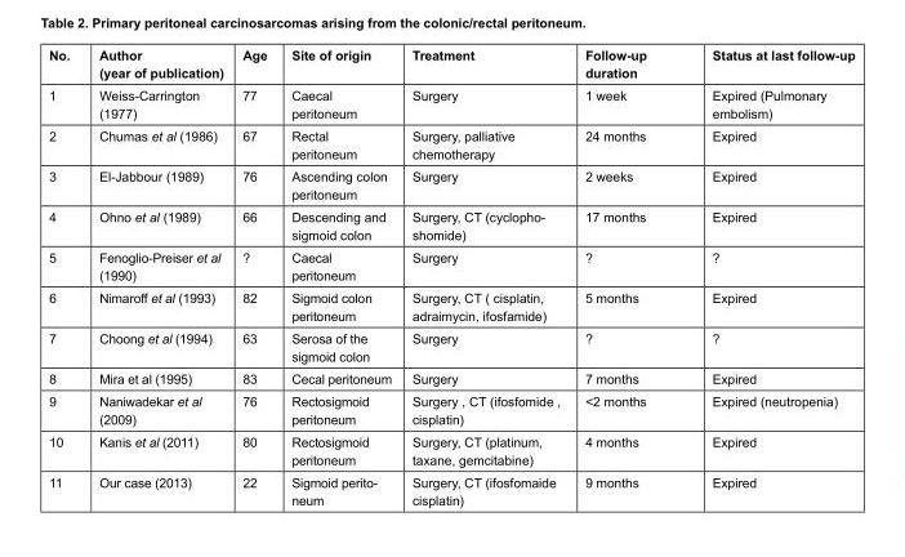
<table><thead><tr><td>No.</td><td>Author (year of publication)</td><td>Age</td><td>Site of origin</td><td>Treatment</td><td>Follow-up duration</td><td>Status at last follow-up</td></tr></thead><tbody><tr><td>1</td><td>Weiss-Carrington (1977)</td><td>77</td><td>Caecal peritoneum</td><td>Surgery</td><td>1 week</td><td>Expired (Pulmonary embolism)</td></tr><tr><td>2</td><td>Chumas et al (1986)</td><td>67</td><td>Rectal peritoneum</td><td>Surgery, palliative chemotherapy</td><td>24 months</td><td>Expired</td></tr><tr><td>3</td><td>El-Jabbour (1989)</td><td>76</td><td>Ascending colon peritoneum</td><td>Surgery</td><td>2 weeks</td><td>Expired</td></tr><tr><td>4</td><td>Ohno et al (1989)</td><td>66</td><td>Descending and sigmoid colon</td><td>Surgery, CT (cyclopho- shomide)</td><td>17 months</td><td>Expired</td></tr><tr><td>5</td><td>Fenoglio-Preiser et al (1990)</td><td>?</td><td>Caecal peritoneum</td><td>Surgery</td><td>?</td><td>?</td></tr><tr><td>6</td><td>Nimaroff et al (1993)</td><td>82</td><td>Sigmoid colon peritoneum</td><td>Surgery, CT ( cisplatin, adraimycin, ifosfamide)</td><td>5 months</td><td>Expired</td></tr><tr><td>7</td><td>Choong et al (1994)</td><td>63</td><td>Serosa of the sigmoid colon</td><td>Surgery</td><td>?</td><td>?</td></tr><tr><td>8</td><td>Mira et al (1995)</td><td>83</td><td>Cecal peritoneum</td><td>Surgery</td><td>7 months</td><td>Expired</td></tr><tr><td>9</td><td>Naniwadekar et al (2009)</td><td>76</td><td>Rectosigmoid peritoneum</td><td>Surgery , CT (ifosfomide , cisplatin)</td><td>&lt;2 months</td><td>Expired (neutropenia)</td></tr><tr><td>10</td><td>Kanis et al (2011)</td><td>80</td><td>Rectosigmoid peritoneum</td><td>Surgery, CT (platinum, taxane, gemcitabine)</td><td>4 months</td><td>Expired</td></tr><tr><td>11</td><td>Our case (2013)</td><td>22</td><td>Sigmoid perito- neum</td><td>Surgery, CT (ifosfomaide cisplatin)</td><td>9 months</td><td>Expired</td></tr></tbody></table>